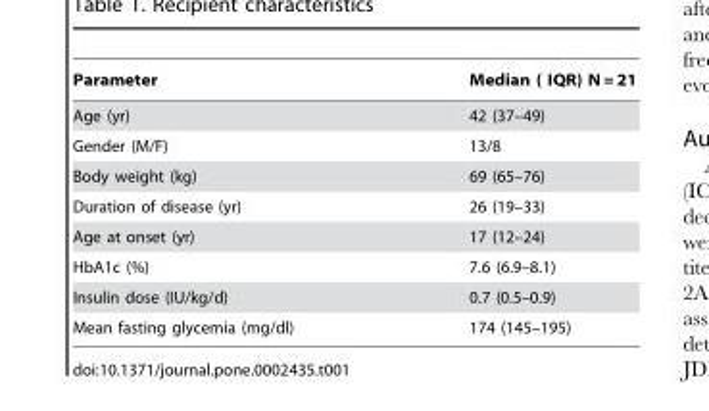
<table><thead><tr><td>Parameter</td><td>Median ( IQR) N = 21</td></tr></thead><tbody><tr><td>Age (yr)</td><td>42 (37–49)</td></tr><tr><td>Gender (M/F)</td><td>13/8</td></tr><tr><td>Body weight (kg)</td><td>69 (65–76)</td></tr><tr><td>Duration of disease (yr)</td><td>26 (19–33)</td></tr><tr><td>Age at onset (yr)</td><td>17 (12–24)</td></tr><tr><td>HbA1c (%)</td><td>7.6 (6.9–8.1)</td></tr><tr><td>Insulin dose (IU/kg/d)</td><td>0.7 (0.5–0.9)</td></tr><tr><td>Mean fasting glycemia (mg/dl)</td><td>174 (145–195)</td></tr></tbody></table>